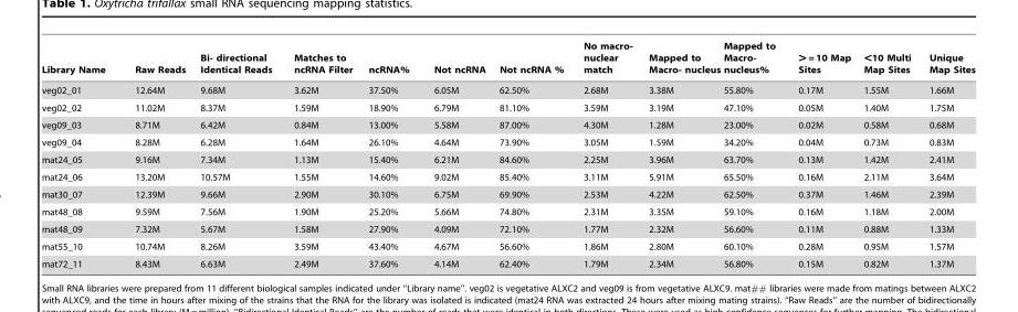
<table><thead><tr><td>Library Name</td><td>Raw Reads</td><td>Bi- directional Identical Reads</td><td>Matches to ncRNA Filter</td><td>ncRNA%</td><td>Not ncRNA</td><td>Not ncRNA %</td><td>No macro- nuclear match</td><td>Mapped to Macro- nucleus</td><td>Mapped to Macro- nucleus%</td><td>&gt; = 10 Map Sites</td><td>&lt;10 Multi Map Sites</td><td>Unique Map Sites</td></tr></thead><tbody><tr><td>veg02_01</td><td>12.64M</td><td>9.68M</td><td>3.62M</td><td>37.50%</td><td>6.05M</td><td>62.50%</td><td>2.68M</td><td>3.38M</td><td>55.80%</td><td>0.17M</td><td>1.55M</td><td>1.66M</td></tr><tr><td>veg02_02</td><td>11.02M</td><td>8.37M</td><td>1.59M</td><td>18.90%</td><td>6.79M</td><td>81.10%</td><td>3.59M</td><td>3.19M</td><td>47.10%</td><td>0.05M</td><td>1.40M</td><td>1.75M</td></tr><tr><td>veg09_03</td><td>8.71M</td><td>6.42M</td><td>0.84M</td><td>13.00%</td><td>5.58M</td><td>87.00%</td><td>4.30M</td><td>1.28M</td><td>23.00%</td><td>0.02M</td><td>0.58M</td><td>0.68M</td></tr><tr><td>veg09_04</td><td>8.28M</td><td>6.28M</td><td>1.64M</td><td>26.10%</td><td>4.64M</td><td>73.90%</td><td>3.05M</td><td>1.59M</td><td>34.20%</td><td>0.04M</td><td>0.73M</td><td>0.83M</td></tr><tr><td>mat24_05</td><td>9.16M</td><td>7.34M</td><td>1.13M</td><td>15.40%</td><td>6.21M</td><td>84.60%</td><td>2.25M</td><td>3.96M</td><td>63.70%</td><td>0.13M</td><td>1.42M</td><td>2.41M</td></tr><tr><td>mat24_06</td><td>13.20M</td><td>10.57M</td><td>1.55M</td><td>14.60%</td><td>9.02M</td><td>85.40%</td><td>3.11M</td><td>5.91M</td><td>65.50%</td><td>0.16M</td><td>2.11M</td><td>3.64M</td></tr><tr><td>mat30_07</td><td>12.39M</td><td>9.66M</td><td>2.90M</td><td>30.10%</td><td>6.75M</td><td>69.90%</td><td>2.53M</td><td>4.22M</td><td>62.50%</td><td>0.37M</td><td>1.46M</td><td>2.39M</td></tr><tr><td>mat48_08</td><td>9.59M</td><td>7.56M</td><td>1.90M</td><td>25.20%</td><td>5.66M</td><td>74.80%</td><td>2.31M</td><td>3.35M</td><td>59.10%</td><td>0.16M</td><td>1.18M</td><td>2.00M</td></tr><tr><td>mat48_09</td><td>7.32M</td><td>5.67M</td><td>1.58M</td><td>27.90%</td><td>4.09M</td><td>72.10%</td><td>1.77M</td><td>2.32M</td><td>56.60%</td><td>0.11M</td><td>0.88M</td><td>1.33M</td></tr><tr><td>mat55_10</td><td>10.74M</td><td>8.26M</td><td>3.59M</td><td>43.40%</td><td>4.67M</td><td>56.60%</td><td>1.86M</td><td>2.80M</td><td>60.10%</td><td>0.28M</td><td>0.95M</td><td>1.57M</td></tr><tr><td>mat72_11</td><td>8.43M</td><td>6.63M</td><td>2.49M</td><td>37.60%</td><td>4.14M</td><td>62.40%</td><td>1.79M</td><td>2.34M</td><td>56.80%</td><td>0.15M</td><td>0.82M</td><td>1.37M</td></tr></tbody></table>